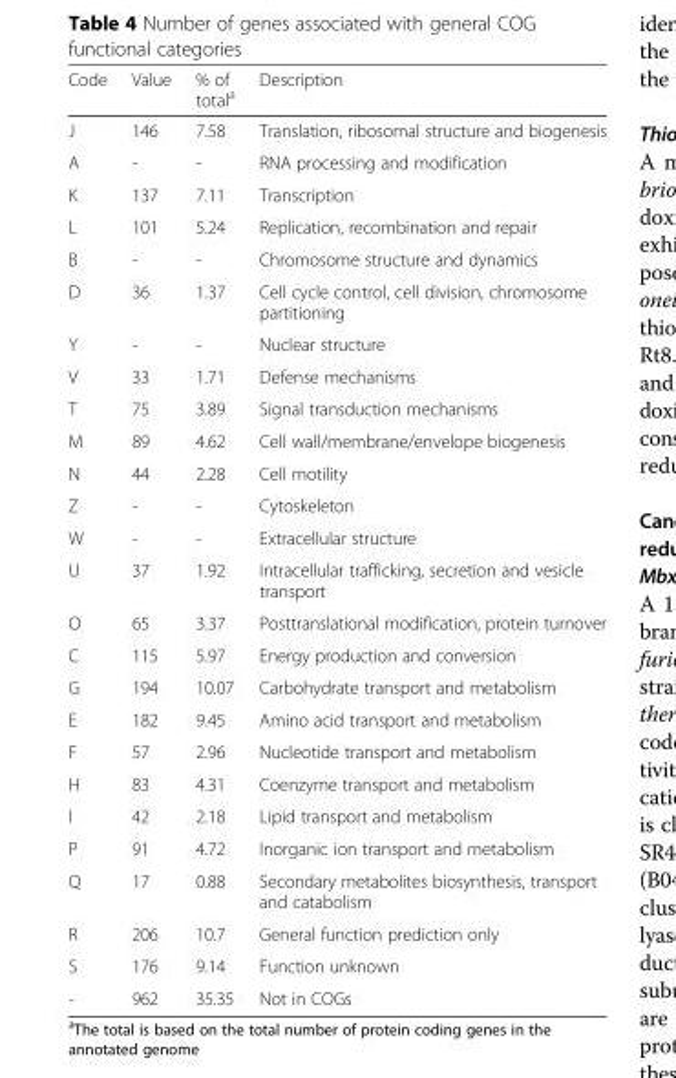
<table><thead><tr><td>Code</td><td>Value</td><td>% of total<sup>a</sup></td><td>Description</td></tr></thead><tbody><tr><td>J</td><td>146</td><td>7.58</td><td>Translation, ribosomal structure and biogenesis</td></tr><tr><td>A</td><td>-</td><td>-</td><td>RNA processing and modification</td></tr><tr><td>K</td><td>137</td><td>7.11</td><td>Transcription</td></tr><tr><td>L</td><td>101</td><td>5.24</td><td>Replication, recombination and repair</td></tr><tr><td>B</td><td>-</td><td>-</td><td>Chromosome structure and dynamics</td></tr><tr><td>D</td><td>36</td><td>1.37</td><td>Cell cycle control, cell division, chromosome partitioning</td></tr><tr><td>Y</td><td>-</td><td>-</td><td>Nuclear structure</td></tr><tr><td>V</td><td>33</td><td>1.71</td><td>Defense mechanisms</td></tr><tr><td>T</td><td>75</td><td>3.89</td><td>Signal transduction mechanisms</td></tr><tr><td>M</td><td>89</td><td>4.62</td><td>Cell wall/membrane/envelope biogenesis</td></tr><tr><td>N</td><td>44</td><td>2.28</td><td>Cell motility</td></tr><tr><td>Z</td><td>-</td><td>-</td><td>Cytoskeleton</td></tr><tr><td>W</td><td>-</td><td>-</td><td>Extracellular structure</td></tr><tr><td>U</td><td>37</td><td>1.92</td><td>Intracellular trafficking, secretion and vesicle transport</td></tr><tr><td>O</td><td>65</td><td>3.37</td><td>Posttranslational modification, protein turnover</td></tr><tr><td>C</td><td>115</td><td>5.97</td><td>Energy production and conversion</td></tr><tr><td>G</td><td>194</td><td>10.07</td><td>Carbohydrate transport and metabolism</td></tr><tr><td>E</td><td>182</td><td>9.45</td><td>Amino acid transport and metabolism</td></tr><tr><td>F</td><td>57</td><td>2.96</td><td>Nucleotide transport and metabolism</td></tr><tr><td>H</td><td>83</td><td>4.31</td><td>Coenzyme transport and metabolism</td></tr><tr><td>I</td><td>42</td><td>2.18</td><td>Lipid transport and metabolism</td></tr><tr><td>P</td><td>91</td><td>4.72</td><td>Inorganic ion transport and metabolism</td></tr><tr><td>Q</td><td>17</td><td>0.88</td><td>Secondary metabolites biosynthesis, transport and catabolism</td></tr><tr><td>R</td><td>206</td><td>10.7</td><td>General function prediction only</td></tr><tr><td>S</td><td>176</td><td>9.14</td><td>Function unknown</td></tr><tr><td>-</td><td>962</td><td>35.35</td><td>Not in COGs</td></tr></tbody></table>